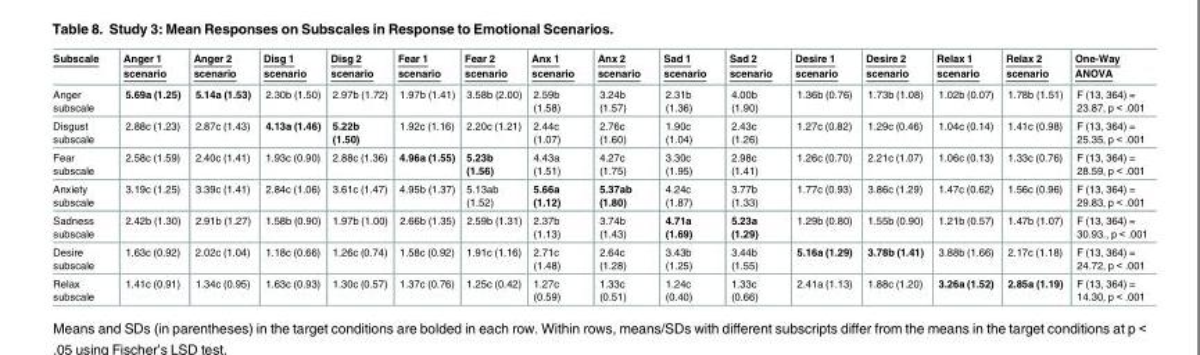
<table><thead><tr><td>Subscale</td><td>Anger 1 scenario</td><td>Anger 2 scenario</td><td>Disg 1 scenario</td><td>Disg 2 scenario</td><td>Fear 1 scenario</td><td>Fear 2 scenario</td><td>Anx 1 scenario</td><td>Anx 2 scenario</td><td>Sad 1 scenario</td><td>Sad 2 scenario</td><td>Desire 1 scenario</td><td>Desire 2 scenario</td><td>Relax 1 scenario</td><td>Relax 2 scenario</td><td>One-Way ANOVA</td></tr></thead><tbody><tr><td>Anger subscale</td><td>5.69a (1.25)</td><td>5.14a (1.53)</td><td>2.30b (1.50)</td><td>2.97b (1.72)</td><td>1.97b (1.41)</td><td>3.58b (2.00)</td><td>2.59b (1.58)</td><td>3.24b (1.57)</td><td>2.31b (1.36)</td><td>4.00b (1.90)</td><td>1.36b (0.76)</td><td>1.73b (1.08)</td><td>1.02b (0.07)</td><td>1.78b (1.51)</td><td>F (13, 364) = 23.87, p &lt; .001</td></tr><tr><td>Disgust subscale</td><td>2.88c (1.23)</td><td>2.87c (1.43)</td><td>4.13a (1.46)</td><td>5.22b (1.50)</td><td>1.92c (1.16)</td><td>2.20c (1.21)</td><td>2.44c (1.07)</td><td>2.76c (1.60)</td><td>1.90c (1.04)</td><td>2.43c (1.26)</td><td>1.27c (0.82)</td><td>1.29c (0.46)</td><td>1.04c (0.14)</td><td>1.41c (0.98)</td><td>F (13, 364) = 25.35, p &lt; .001</td></tr><tr><td>Fear subscale</td><td>2.58c (1.59)</td><td>2.40c (1.41)</td><td>1.93c (0.90)</td><td>2.88c (1.36)</td><td>4.96a (1.55)</td><td>5.23b (1.56)</td><td>4.43a (1.51)</td><td>4.27c (1.75)</td><td>3.30c (1.95)</td><td>2.98c (1.41)</td><td>1.26c (0.70)</td><td>2.21c (1.07)</td><td>1.06c (0.13)</td><td>1.33c (0.76)</td><td>F (13, 364) = 28.59, p &lt; .001</td></tr><tr><td>Anxiety subscale</td><td>3.19c (1.25)</td><td>3.39c (1.41)</td><td>2.84c (1.06)</td><td>3.61c (1.47)</td><td>4.95b (1.37)</td><td>5.13ab (1.52)</td><td>5.66a (1.12)</td><td>5.37ab (1.80)</td><td>4.24c (1.87)</td><td>3.77b (1.33)</td><td>1.77c (0.93)</td><td>3.86c (1.29)</td><td>1.47c (0.62)</td><td>1.56c (0.96)</td><td>F (13, 364) = 29.83, p &lt; .001</td></tr><tr><td>Sadness subscale</td><td>2.42b (1.30)</td><td>2.91b (1.27)</td><td>1.58b (0.90)</td><td>1.97b (1.00)</td><td>2.66b (1.35)</td><td>2.59b (1.31)</td><td>2.37b (1.13)</td><td>3.74b (1.43)</td><td>4.71a (1.69)</td><td>5.23a (1.29)</td><td>1.29b (0.80)</td><td>1.55b (0.90)</td><td>1.21b (0.57)</td><td>1.47b (1.07)</td><td>F (13, 364) = 30.93., p &lt; .001</td></tr><tr><td>Desire subscale</td><td>1.63c (0.92)</td><td>2.02c (1.04)</td><td>1.18c (0.66)</td><td>1.26c (0.74)</td><td>1.58c (0.92)</td><td>1.91c (1.16)</td><td>2.71c (1.48)</td><td>2.64c (1.28)</td><td>3.43b (1.25)</td><td>3.44b (1.55)</td><td>5.16a (1.29)</td><td>3.78b (1.41)</td><td>3.88b (1.66)</td><td>2.17c (1.18)</td><td>F (13, 364) = 24.72, p &lt; .001</td></tr><tr><td>Relax subscale</td><td>1.41c (0.91)</td><td>1.34c (0.95)</td><td>1.63c (0.93)</td><td>1.30c (0.57)</td><td>1.37c (0.76)</td><td>1.25c (0.42)</td><td>1.27c (0.59)</td><td>1.33c (0.51)</td><td>1.24c (0.40)</td><td>1.33c (0.66)</td><td>2.41a (1.13)</td><td>1.88c (1.20)</td><td>3.26a (1.52)</td><td>2.85a (1.19)</td><td>F (13, 364) = 14.30, p &lt; .001</td></tr></tbody></table>